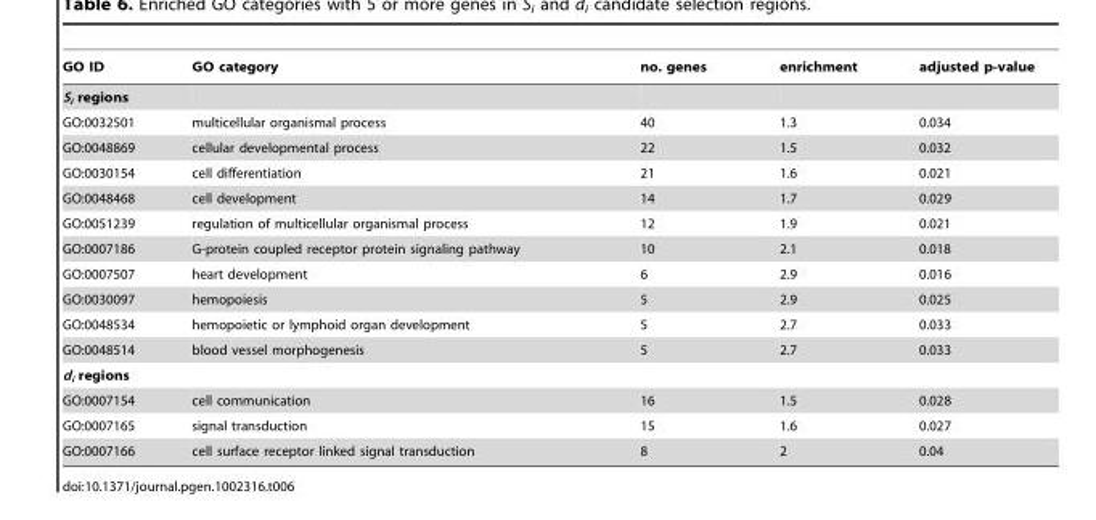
<table><thead><tr><td>GO ID</td><td>GO category</td><td>no. genes</td><td>enrichment</td><td>adjusted p-value</td></tr></thead><tbody><tr><td colspan="5">S<sub>i</sub> regions</td></tr><tr><td>GO:0032501</td><td>multicellular organismal process</td><td>40</td><td>1.3</td><td>0.034</td></tr><tr><td>GO:0048869</td><td>cellular developmental process</td><td>22</td><td>1.5</td><td>0.032</td></tr><tr><td>GO:0030154</td><td>cell differentiation</td><td>21</td><td>1.6</td><td>0.021</td></tr><tr><td>GO:0048468</td><td>cell development</td><td>14</td><td>1.7</td><td>0.029</td></tr><tr><td>GO:0051239</td><td>regulation of multicellular organismal process</td><td>12</td><td>1.9</td><td>0.021</td></tr><tr><td>GO:0007186</td><td>G-protein coupled receptor protein signaling pathway</td><td>10</td><td>2.1</td><td>0.018</td></tr><tr><td>GO:0007507</td><td>heart development</td><td>6</td><td>2.9</td><td>0.016</td></tr><tr><td>GO:0030097</td><td>hemopoiesis</td><td>5</td><td>2.9</td><td>0.025</td></tr><tr><td>GO:0048534</td><td>hemopoietic or lymphoid organ development</td><td>5</td><td>2.7</td><td>0.033</td></tr><tr><td>GO:0048514</td><td>blood vessel morphogenesis</td><td>5</td><td>2.7</td><td>0.033</td></tr><tr><td colspan="5">d<sub>i</sub> regions</td></tr><tr><td>GO:0007154</td><td>cell communication</td><td>16</td><td>1.5</td><td>0.028</td></tr><tr><td>GO:0007165</td><td>signal transduction</td><td>15</td><td>1.6</td><td>0.027</td></tr><tr><td>GO:0007166</td><td>cell surface receptor linked signal transduction</td><td>8</td><td>2</td><td>0.04</td></tr></tbody></table>